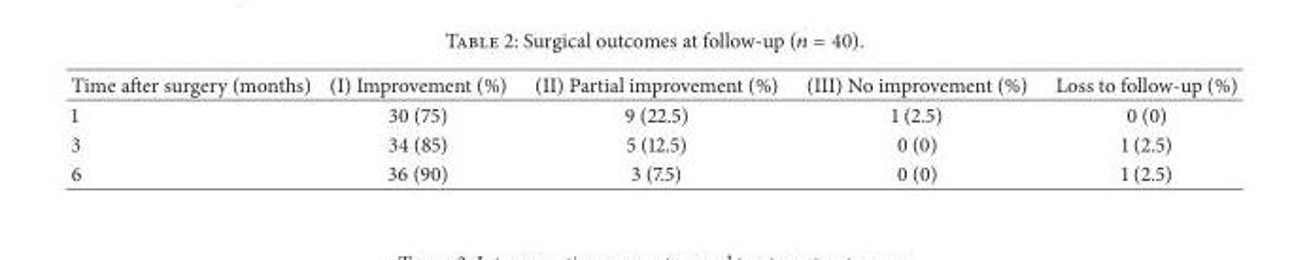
<table><thead><tr><td>Time after surgery (months)</td><td>(I) Improvement (%)</td><td>(II) Partial improvement (%)</td><td>(III) No improvement (%)</td><td>Loss to follow-up (%)</td></tr></thead><tbody><tr><td>1</td><td>30 (75)</td><td>9 (22.5)</td><td>1 (2.5)</td><td>0 (0)</td></tr><tr><td>3</td><td>34 (85)</td><td>5 (12.5)</td><td>0 (0)</td><td>1 (2.5)</td></tr><tr><td>6</td><td>36 (90)</td><td>3 (7.5)</td><td>0 (0)</td><td>1 (2.5)</td></tr></tbody></table>